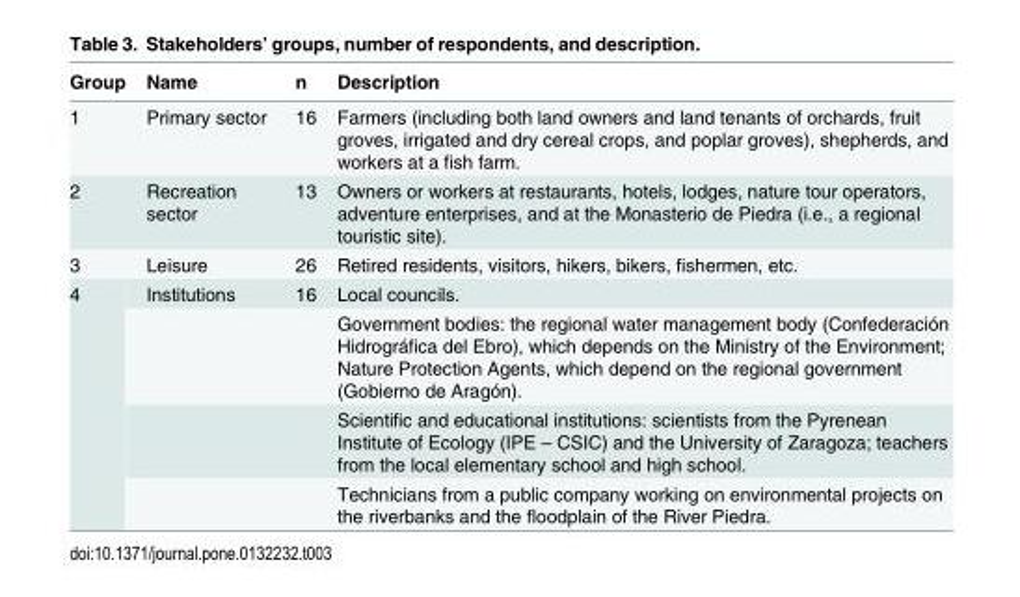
<table><thead><tr><td>Group</td><td>Name</td><td>n</td><td>Description</td></tr></thead><tbody><tr><td>1</td><td>Primary sector</td><td>16</td><td>Farmers (including both land owners and land tenants of orchards, fruit groves, irrigated and dry cereal crops, and poplar groves), shepherds, and workers at a fish farm.</td></tr><tr><td>2</td><td>Recreation sector</td><td>13</td><td>Owners or workers at restaurants, hotels, lodges, nature tour operators, adventure enterprises, and at the Monasterio de Piedra (i.e., a regional touristic site).</td></tr><tr><td>3</td><td>Leisure</td><td>26</td><td>Retired residents, visitors, hikers, bikers, fishermen, etc.</td></tr><tr><td rowspan="4">4</td><td>Institutions</td><td>16</td><td>Local councils.</td></tr><tr><td></td><td></td><td>Government bodies: the regional water management body (Confederación Hidrográfica del Ebro), which depends on the Ministry of the Environment; Nature Protection Agents, which depend on the regional government (Gobierno de Aragón).</td></tr><tr><td></td><td></td><td>Scientific and educational institutions: scientists from the Pyrenean Institute of Ecology (IPE – CSIC) and the University of Zaragoza; teachers from the local elementary school and high school.</td></tr><tr><td></td><td></td><td>Technicians from a public company working on environmental projects on the riverbanks and the floodplain of the River Piedra.</td></tr></tbody></table>